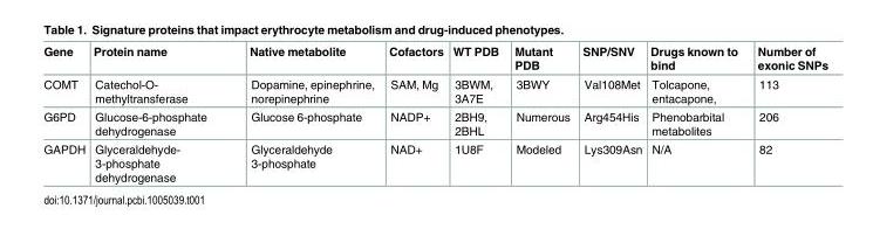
<table><thead><tr><td>Gene</td><td>Protein name</td><td>Native metabolite</td><td>Cofactors</td><td>WT PDB</td><td>Mutant PDB</td><td>SNP/SNV</td><td>Drugs known to bind</td><td>Number of exonic SNPs</td></tr></thead><tbody><tr><td>COMT</td><td>Catechol-O- methyltransferase</td><td>Dopamine, epinephrine, norepinephrine</td><td>SAM, Mg</td><td>3BWM, 3A7E</td><td>3BWY</td><td>Val108Met</td><td>Tolcapone, entacapone,</td><td>113</td></tr><tr><td>G6PD</td><td>Glucose-6-phosphate dehydrogenase</td><td>Glucose 6-phosphate</td><td>NADP+</td><td>2BH9, 2BHL</td><td>Numerous</td><td>Arg454His</td><td>Phenobarbital metabolites</td><td>206</td></tr><tr><td>GAPDH</td><td>Glyceraldehyde- 3-phosphate dehydrogenase</td><td>Glyceraldehyde 3-phosphate</td><td>NAD+</td><td>1U8F</td><td>Modeled</td><td>Lys309Asn</td><td>N/A</td><td>82</td></tr></tbody></table>